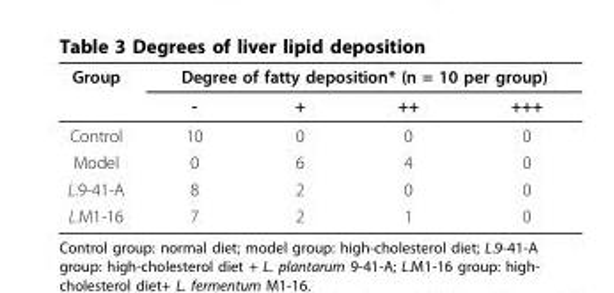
<table><thead><tr><td rowspan="2">Group</td><td colspan="4">Degree of fatty deposition* (n = 10 per group)</td></tr><tr><td>-</td><td>+</td><td>++</td><td>+++</td></tr></thead><tbody><tr><td>Control</td><td>10</td><td>0</td><td>0</td><td>0</td></tr><tr><td>Model</td><td>0</td><td>6</td><td>4</td><td>0</td></tr><tr><td>L.9-41-A</td><td>8</td><td>2</td><td>0</td><td>0</td></tr><tr><td>L.M1-16</td><td>7</td><td>2</td><td>1</td><td>0</td></tr></tbody></table>